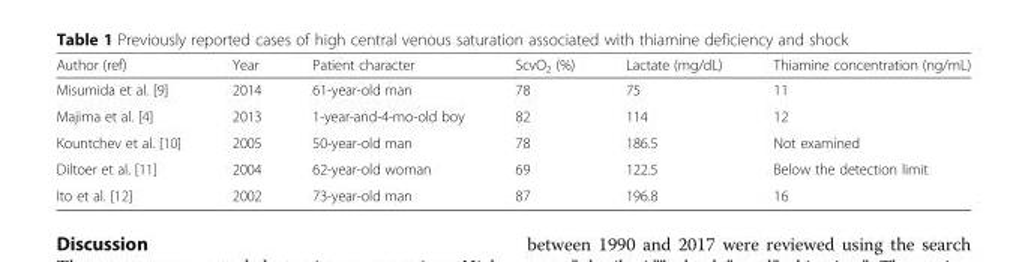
<table><thead><tr><td>Author (ref)</td><td>Year</td><td>Patient character</td><td>ScvO<sub>2</sub> (%)</td><td>Lactate (mg/dL)</td><td>Thiamine concentration (ng/mL)</td></tr></thead><tbody><tr><td>Misumida et al. [9]</td><td>2014</td><td>61-year-old man</td><td>78</td><td>75</td><td>11</td></tr><tr><td>Majima et al. [4]</td><td>2013</td><td>1-year-and-4-mo-old boy</td><td>82</td><td>114</td><td>12</td></tr><tr><td>Kountchev et al. [10]</td><td>2005</td><td>50-year-old man</td><td>78</td><td>186.5</td><td>Not examined</td></tr><tr><td>Diltoer et al. [11]</td><td>2004</td><td>62-year-old woman</td><td>69</td><td>122.5</td><td>Below the detection limit</td></tr><tr><td>Ito et al. [12]</td><td>2002</td><td>73-year-old man</td><td>87</td><td>196.8</td><td>16</td></tr></tbody></table>